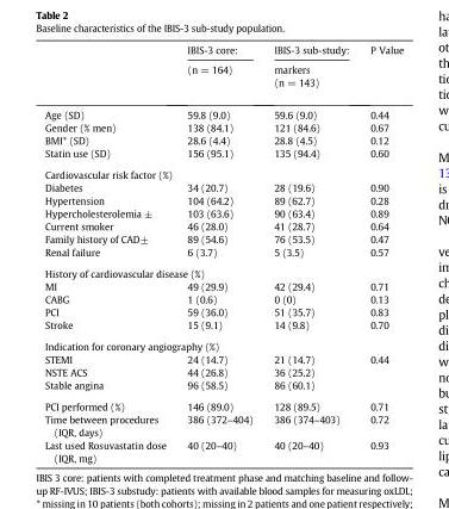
<table><thead><tr><td rowspan="2"></td><td rowspan="2">IBIS-3 core: (n = 164)</td><td rowspan="2">IBIS-3 sub-study: markers (n = 143)</td><td rowspan="2">P Value</td></tr><tr></tr></thead><tbody><tr><td>Age (SD)</td><td>59.8 (9.0)</td><td>59.6 (9.0)</td><td>0.44</td></tr><tr><td>Gender (% men)</td><td>138 (84.1)</td><td>121 (84.6)</td><td>0.67</td></tr><tr><td>BMI* (SD)</td><td>28.6 (4.4)</td><td>28.8 (4.5)</td><td>0.12</td></tr><tr><td>Statin use (SD)</td><td>156 (95.1)</td><td>135 (94.4)</td><td>0.60</td></tr><tr><td colspan="4">Cardiovascular risk factor (%)</td></tr><tr><td>Diabetes</td><td>34 (20.7)</td><td>28 (19.6)</td><td>0.90</td></tr><tr><td>Hypertension</td><td>104 (64.2)</td><td>89 (62.7)</td><td>0.28</td></tr><tr><td>Hypercholesterolemia ±</td><td>103 (63.6)</td><td>90 (63.4)</td><td>0.89</td></tr><tr><td>Current smoker</td><td>46 (28.0)</td><td>41 (28.7)</td><td>0.64</td></tr><tr><td>Family history of CAD±</td><td>89 (54.6)</td><td>76 (53.5)</td><td>0.47</td></tr><tr><td>Renal failure</td><td>6 (3.7)</td><td>5 (3.5)</td><td>0.57</td></tr><tr><td colspan="4">History of cardiovascular disease (%)</td></tr><tr><td>MI</td><td>49 (29.9)</td><td>42 (29.4)</td><td>0.71</td></tr><tr><td>CABG</td><td>1 (0.6)</td><td>0 (0)</td><td>0.13</td></tr><tr><td>PCI</td><td>59 (36.0)</td><td>51 (35.7)</td><td>0.83</td></tr><tr><td>Stroke</td><td>15 (9.1)</td><td>14 (9.8)</td><td>0.70</td></tr><tr><td colspan="4">Indication for coronary angiography (%)</td></tr><tr><td>STEMI</td><td>24 (14.7)</td><td>21 (14.7)</td><td>0.44</td></tr><tr><td>NSTE ACS</td><td>44 (26.8)</td><td>36 (25.2)</td><td></td></tr><tr><td>Stable angina</td><td>96 (58.5)</td><td>86 (60.1)</td><td></td></tr><tr><td>PCI performed (%)</td><td>146 (89.0)</td><td>128 (89.5)</td><td>0.71</td></tr><tr><td>Time between procedures (IQR, days)</td><td>386 (372–404)</td><td>386 (374–403)</td><td>0.72</td></tr><tr><td>Last used Rosuvastatin dose (IQR, mg)</td><td>40 (20–40)</td><td>40 (20–40)</td><td>0.93</td></tr></tbody></table>